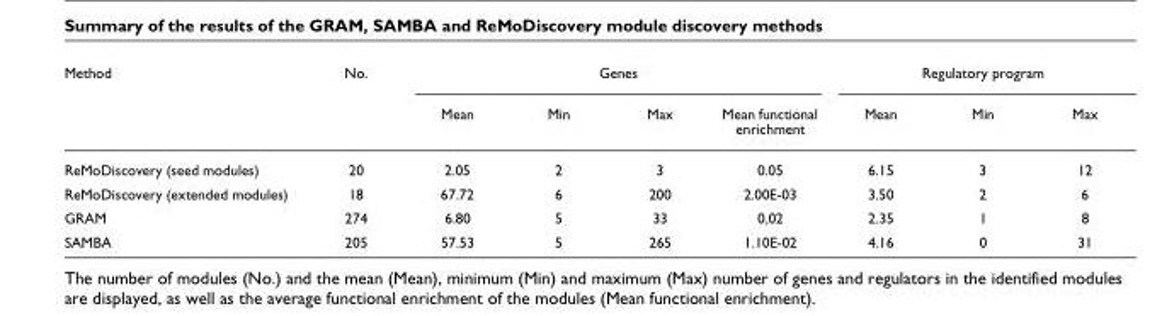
<table><thead><tr><td rowspan="2">Method</td><td rowspan="2">No.</td><td colspan="4">Genes</td><td colspan="3">Regulatory program</td></tr><tr><td>Mean</td><td>Min</td><td>Max</td><td>Mean functional enrichment</td><td>Mean</td><td>Min</td><td>Max</td></tr></thead><tbody><tr><td>ReMoDiscovery (seed modules)</td><td>20</td><td>2.05</td><td>2</td><td>3</td><td>0.05</td><td>6.15</td><td>3</td><td>12</td></tr><tr><td>ReMoDiscovery (extended modules)</td><td>18</td><td>67.72</td><td>6</td><td>200</td><td>2.00E-03</td><td>3.50</td><td>2</td><td>6</td></tr><tr><td>GRAM</td><td>274</td><td>6.80</td><td>5</td><td>33</td><td>0,02</td><td>2.35</td><td>1</td><td>8</td></tr><tr><td>SAMBA</td><td>205</td><td>57.53</td><td>5</td><td>265</td><td>1.10E-02</td><td>4.16</td><td>0</td><td>31</td></tr></tbody></table>